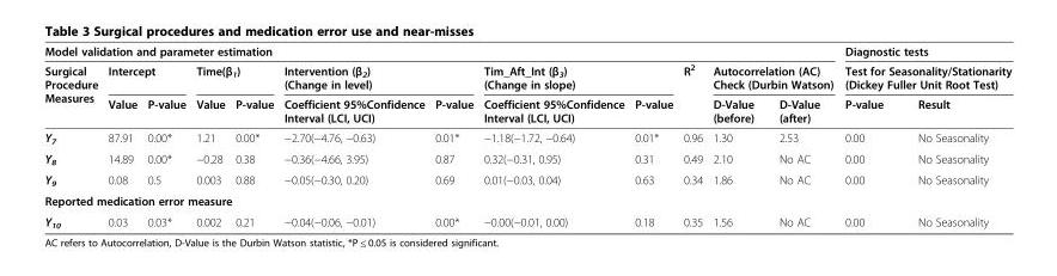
<table><thead><tr><td colspan="12">Model validation and parameter estimation</td><td rowspan="2" colspan="2">Diagnostic tests Test for Seasonality/Stationarity (Dickey Fuller Unit Root Test)</td></tr><tr><td rowspan="2">Surgical Procedure Measures</td><td colspan="2">Intercept</td><td colspan="2">Time(β<sub>1</sub>)</td><td colspan="2">Intervention (β<sub>2</sub>) (Change in level)</td><td colspan="2">Tim_Aft_Int (β<sub>3</sub>) (Change in slope)</td><td rowspan="2">R<sup>2</sup></td><td colspan="2">Autocorrelation (AC) Check (Durbin Watson)</td></tr><tr><td>Value</td><td>P-value</td><td>Value</td><td>P-value</td><td>Coefficient 95%Confidence Interval (LCI, UCI)</td><td>P-value</td><td>Coefficient 95%Confidence Interval (LCI, UCI)</td><td>P-value</td><td>D-Value (before)</td><td>D-Value (after)</td><td>P-value</td><td>Result</td></tr></thead><tbody><tr><td>Y<sub>7</sub></td><td>87.91</td><td>0.00*</td><td>1.21</td><td>0.00*</td><td>−2.70(−4.76, −0.63)</td><td>0.01*</td><td>−1.18(−1.72, −0.64)</td><td>0.01*</td><td>0.96</td><td>1.30</td><td>2.53</td><td>0.00</td><td>No Seasonality</td></tr><tr><td>Y<sub>8</sub></td><td>14.89</td><td>0.00*</td><td>−0.28</td><td>0.38</td><td>−0.36(−4.66, 3.95)</td><td>0.87</td><td>0.32(−0.31, 0.95)</td><td>0.31</td><td>0.49</td><td>2.10</td><td>No AC</td><td>0.00</td><td>No Seasonality</td></tr><tr><td>Y<sub>9</sub></td><td>0.08</td><td>0.5</td><td>0.003</td><td>0.88</td><td>−0.05(−0.30, 0.20)</td><td>0.69</td><td>0.01(−0.03, 0.04)</td><td>0.63</td><td>0.34</td><td>1.86</td><td>No AC</td><td>0.00</td><td>No Seasonality</td></tr><tr><td colspan="14">Reported medication error measure</td></tr><tr><td>Y<sub>10</sub></td><td>0.03</td><td>0.03*</td><td>0.002</td><td>0.21</td><td>−0.04(−0.06, −0.01)</td><td>0.00*</td><td>−0.00(−0.01, 0.00)</td><td>0.18</td><td>0.35</td><td>1.56</td><td>No AC</td><td>0.00</td><td>No Seasonality</td></tr></tbody></table>